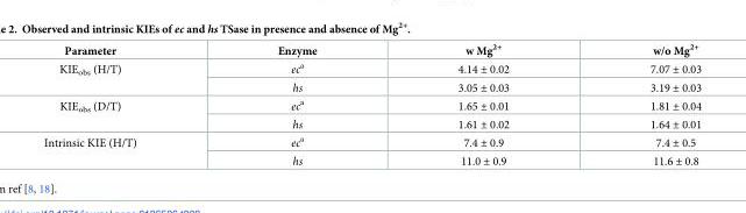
<table><thead><tr><td>Parameter</td><td>Enzyme</td><td>w Mg<sup>2+</sup></td><td>w/o Mg<sup>2+</sup></td></tr></thead><tbody><tr><td rowspan="2">KIE<sub>obs</sub> (H/T)</td><td>ec<sup>a</sup></td><td>4.14 ± 0.02</td><td>7.07 ± 0.03</td></tr><tr><td>hs</td><td>3.05 ± 0.03</td><td>3.19 ± 0.03</td></tr><tr><td rowspan="2">KIE<sub>obs</sub> (D/T)</td><td>ec<sup>a</sup></td><td>1.65 ± 0.01</td><td>1.81 ± 0.04</td></tr><tr><td>hs</td><td>1.61 ± 0.02</td><td>1.64 ± 0.01</td></tr><tr><td rowspan="2">Intrinsic KIE (H/T)</td><td>ec<sup>a</sup></td><td>7.4 ± 0.9</td><td>7.4 ± 0.5</td></tr><tr><td>hs</td><td>11.0 ± 0.9</td><td>11.6 ± 0.8</td></tr></tbody></table>